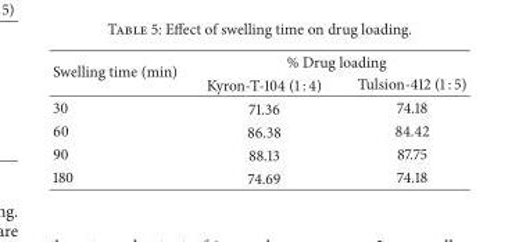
<table><thead><tr><td rowspan="2">Swelling time (min)</td><td colspan="2">% Drug loading</td></tr><tr><td>Kyron-T-104 (1 : 4)</td><td>Tulsion-412 (1 : 5)</td></tr></thead><tbody><tr><td>30</td><td>71.36</td><td>74.18</td></tr><tr><td>60</td><td>86.38</td><td>84.42</td></tr><tr><td>90</td><td>88.13</td><td>87.75</td></tr><tr><td>180</td><td>74.69</td><td>74.18</td></tr></tbody></table>